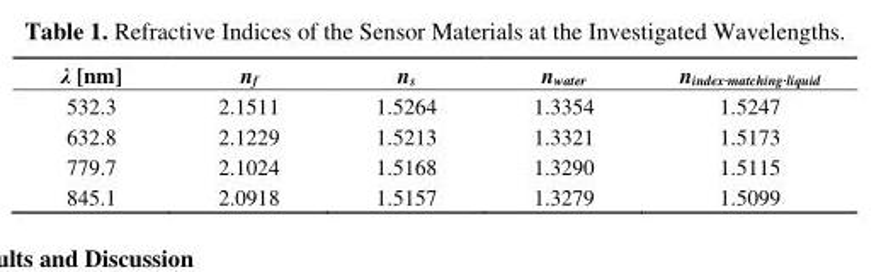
<table><thead><tr><td>λ [nm]</td><td>n<sub>f</sub></td><td>n<sub>s</sub></td><td>n<sub>water</sub></td><td>n<sub>index·matching·liquid</sub></td></tr></thead><tbody><tr><td>532.3</td><td>2.1511</td><td>1.5264</td><td>1.3354</td><td>1.5247</td></tr><tr><td>632.8</td><td>2.1229</td><td>1.5213</td><td>1.3321</td><td>1.5173</td></tr><tr><td>779.7</td><td>2.1024</td><td>1.5168</td><td>1.3290</td><td>1.5115</td></tr><tr><td>845.1</td><td>2.0918</td><td>1.5157</td><td>1.3279</td><td>1.5099</td></tr></tbody></table>